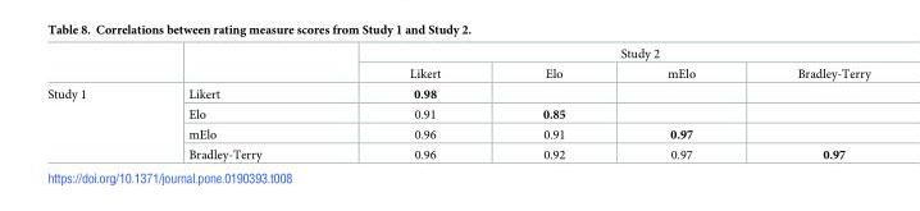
<table><thead><tr><td rowspan="2"></td><td rowspan="2"></td><td colspan="4">Study 2</td></tr><tr><td>Likert</td><td>Elo</td><td>mElo</td><td>Bradley-Terry</td></tr></thead><tbody><tr><td rowspan="4">Study 1</td><td>Likert</td><td>0.98</td><td></td><td></td><td></td></tr><tr><td>Elo</td><td>0.91</td><td>0.85</td><td></td><td></td></tr><tr><td>mElo</td><td>0.96</td><td>0.91</td><td>0.97</td><td></td></tr><tr><td>Bradley-Terry</td><td>0.96</td><td>0.92</td><td>0.97</td><td>0.97</td></tr></tbody></table>